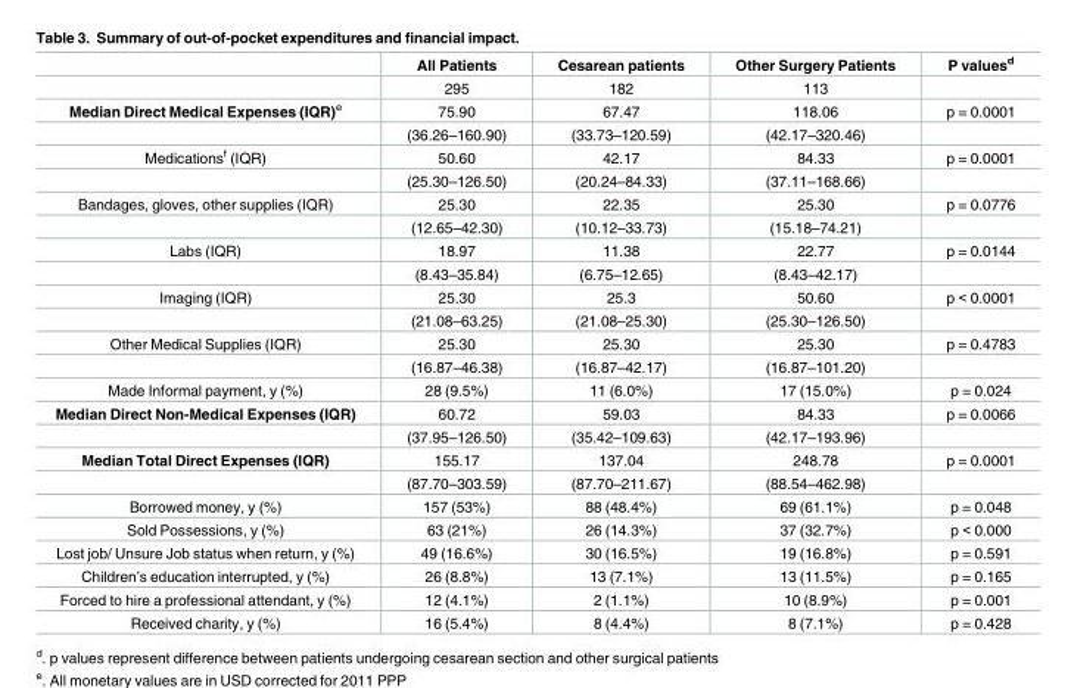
<table><thead><tr><td></td><td>All Patients</td><td>Cesarean patients</td><td>Other Surgery Patients</td><td>P values<sup>d</sup></td></tr></thead><tbody><tr><td></td><td>295</td><td>182</td><td>113</td><td></td></tr><tr><td rowspan="2">Median Direct Medical Expenses (IQR)<sup>e</sup></td><td>75.90</td><td>67.47</td><td>118.06</td><td>p = 0.0001</td></tr><tr><td>(36.26–160.90)</td><td>(33.73–120.59)</td><td>(42.17–320.46)</td><td></td></tr><tr><td rowspan="2">Medications<sup>f</sup> (IQR)</td><td>50.60</td><td>42.17</td><td>84.33</td><td>p = 0.0001</td></tr><tr><td>(25.30–126.50)</td><td>(20.24–84.33)</td><td>(37.11–168.66)</td><td></td></tr><tr><td rowspan="2">Bandages, gloves, other supplies (IQR)</td><td>25.30</td><td>22.35</td><td>25.30</td><td>p = 0.0776</td></tr><tr><td>(12.65–42.30)</td><td>(10.12–33.73)</td><td>(15.18–74.21)</td><td></td></tr><tr><td rowspan="2">Labs (IQR)</td><td>18.97</td><td>11.38</td><td>22.77</td><td>p = 0.0144</td></tr><tr><td>(8.43–35.84)</td><td>(6.75–12.65)</td><td>(8.43–42.17)</td><td></td></tr><tr><td rowspan="2">Imaging (IQR)</td><td>25.30</td><td>25.3</td><td>50.60</td><td>p &lt; 0.0001</td></tr><tr><td>(21.08–63.25)</td><td>(21.08–25.30)</td><td>(25.30–126.50)</td><td></td></tr><tr><td rowspan="2">Other Medical Supplies (IQR)</td><td>25.30</td><td>25.30</td><td>25.30</td><td>p = 0.4783</td></tr><tr><td>(16.87–46.38)</td><td>(16.87–42.17)</td><td>(16.87–101.20)</td><td></td></tr><tr><td>Made Informal payment, y (%)</td><td>28 (9.5%)</td><td>11 (6.0%)</td><td>17 (15.0%)</td><td>p = 0.024</td></tr><tr><td rowspan="2">Median Direct Non-Medical Expenses (IQR)</td><td>60.72</td><td>59.03</td><td>84.33</td><td>p = 0.0066</td></tr><tr><td>(37.95–126.50)</td><td>(35.42–109.63)</td><td>(42.17–193.96)</td><td></td></tr><tr><td rowspan="2">Median Total Direct Expenses (IQR)</td><td>155.17</td><td>137.04</td><td>248.78</td><td>p = 0.0001</td></tr><tr><td>(87.70–303.59)</td><td>(87.70–211.67)</td><td>(88.54–462.98)</td><td></td></tr><tr><td>Borrowed money, y (%)</td><td>157 (53%)</td><td>88 (48.4%)</td><td>69 (61.1%)</td><td>p = 0.048</td></tr><tr><td>Sold Possessions, y (%)</td><td>63 (21%)</td><td>26 (14.3%)</td><td>37 (32.7%)</td><td>p &lt; 0.000</td></tr><tr><td>Lost job/ Unsure Job status when return, y (%)</td><td>49 (16.6%)</td><td>30 (16.5%)</td><td>19 (16.8%)</td><td>p = 0.591</td></tr><tr><td>Children’s education interrupted, y (%)</td><td>26 (8.8%)</td><td>13 (7.1%)</td><td>13 (11.5%)</td><td>p = 0.165</td></tr><tr><td>Forced to hire a professional attendant, y (%)</td><td>12 (4.1%)</td><td>2 (1.1%)</td><td>10 (8.9%)</td><td>p = 0.001</td></tr><tr><td>Received charity, y (%)</td><td>16 (5.4%)</td><td>8 (4.4%)</td><td>8 (7.1%)</td><td>p = 0.428</td></tr></tbody></table>